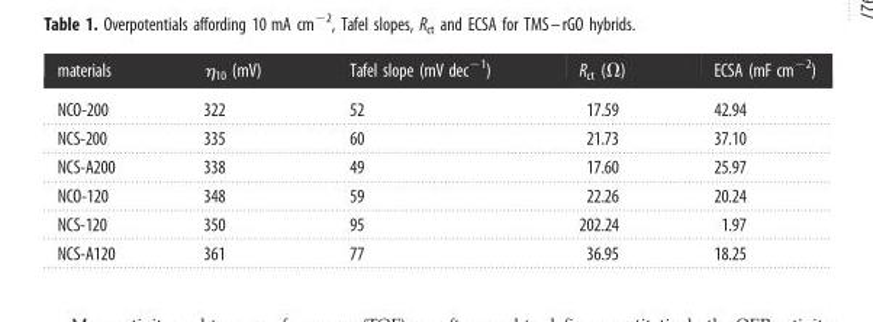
<table><thead><tr><td>materials</td><td>η<sub>10</sub> (mV)</td><td>Tafel slope (mV dec<sup>−1</sup>)</td><td>R<sub>ct</sub> (Ω)</td><td>ECSA (mF cm<sup>−2</sup>)</td></tr></thead><tbody><tr><td>NCO-200</td><td>322</td><td>52</td><td>17.59</td><td>42.94</td></tr><tr><td>NCS-200</td><td>335</td><td>60</td><td>21.73</td><td>37.10</td></tr><tr><td>NCS-A200</td><td>338</td><td>49</td><td>17.60</td><td>25.97</td></tr><tr><td>NCO-120</td><td>348</td><td>59</td><td>22.26</td><td>20.24</td></tr><tr><td>NCS-120</td><td>350</td><td>95</td><td>202.24</td><td>1.97</td></tr><tr><td>NCS-A120</td><td>361</td><td>77</td><td>36.95</td><td>18.25</td></tr></tbody></table>